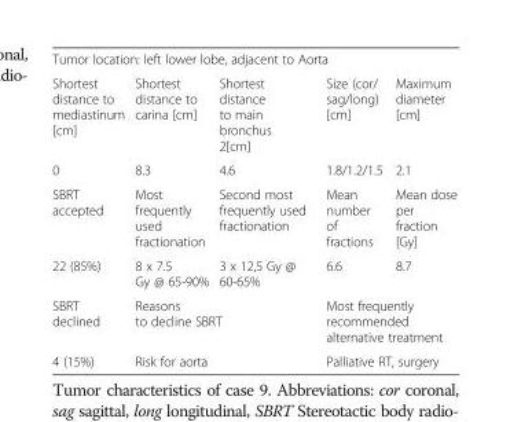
<table><tbody><tr><td colspan="5">Tumor location: left lower lobe, adjacent to Aorta</td></tr><tr><td>Shortest distance to mediastinum [cm]</td><td>Shortest distance to carina [cm]</td><td>Shortest distance to main bronchus 2[cm]</td><td>Size (cor/ sag/long) [cm]</td><td>Maximum diameter [cm]</td></tr><tr><td>0</td><td>8.3</td><td>4.6</td><td>1.8/1.2/1.5</td><td>2.1</td></tr><tr><td>SBRT accepted</td><td>Most frequently used fractionation</td><td>Second most frequently used fractionation</td><td>Mean number of fractions</td><td>Mean dose per fraction [Gy]</td></tr><tr><td>22 (85%)</td><td>8 x 7.5 Gy @ 65-90%</td><td>3 x 12,5 Gy @ 60-65%</td><td>6.6</td><td>8.7</td></tr><tr><td>SBRT declined</td><td colspan="2">Reasons to decline SBRT</td><td colspan="2">Most frequently recommended alternative treatment</td></tr><tr><td>4 (15%)</td><td colspan="2">Risk for aorta</td><td colspan="2">Palliative RT, surgery</td></tr></tbody></table>